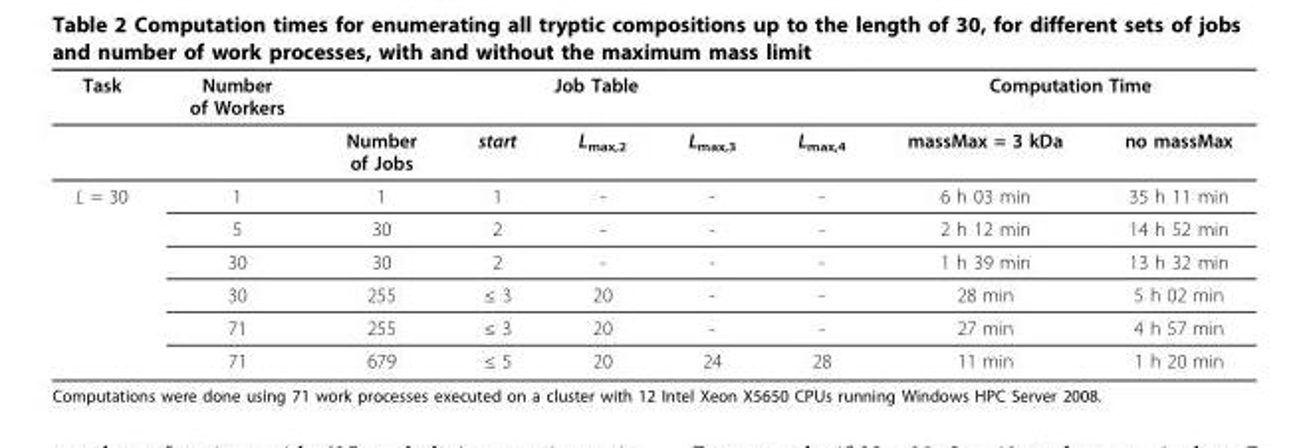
<table><thead><tr><td rowspan="2">Task</td><td rowspan="2">Number of Workers</td><td colspan="5">Job Table</td><td colspan="2">Computation Time</td></tr><tr><td>Number of Jobs</td><td>start</td><td>L<sub>max,2</sub></td><td>L<sub>max,3</sub></td><td>L<sub>max,4</sub></td><td>massMax = 3 kDa</td><td>no massMax</td></tr></thead><tbody><tr><td rowspan="6">L = 30</td><td>1</td><td>1</td><td>1</td><td>-</td><td>-</td><td>-</td><td>6 h 03 min</td><td>35 h 11 min</td></tr><tr><td>5</td><td>30</td><td>2</td><td>-</td><td>-</td><td>-</td><td>2 h 12 min</td><td>14 h 52 min</td></tr><tr><td>30</td><td>30</td><td>2</td><td>-</td><td>-</td><td>-</td><td>1 h 39 min</td><td>13 h 32 min</td></tr><tr><td>30</td><td>255</td><td>≤ 3</td><td>20</td><td>-</td><td>-</td><td>28 min</td><td>5 h 02 min</td></tr><tr><td>71</td><td>255</td><td>≤ 3</td><td>20</td><td>-</td><td>-</td><td>27 min</td><td>4 h 57 min</td></tr><tr><td>71</td><td>679</td><td>≤ 5</td><td>20</td><td>24</td><td>28</td><td>11 min</td><td>1 h 20 min</td></tr></tbody></table>